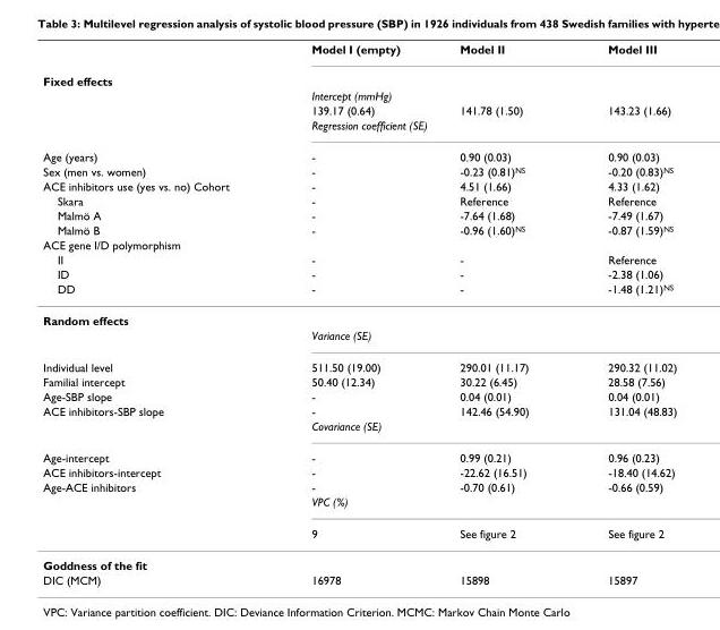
<table><thead><tr><td rowspan="15">Fixed effects Age (years) Sex (men vs. women) ACE inhibitors use (yes vs. no) Cohort Skara Malmö A Malmö B ACE gene I/D polymorphism II ID DD</td><td rowspan="2">Model I (empty)</td><td rowspan="2">Model II</td><td rowspan="2">Model III</td></tr><tr></tr><tr><td colspan="3">Intercept (mmHg)</td></tr><tr><td>139.17 (0.64)</td><td>141.78 (1.50)</td><td>143.23 (1.66)</td></tr><tr><td colspan="3">Regression coefficient (SE)</td></tr><tr><td rowspan="10">- - - - - - - - -</td><td rowspan="10">0.90 (0.03) -0.23 (0.81)NS 4.51 (1.66) Reference -7.64 (1.68) -0.96 (1.60)NS - - -</td><td rowspan="10">0.90 (0.03) -0.20 (0.83)NS 4.33 (1.62) Reference -7.49 (1.67) -0.87 (1.59)NS Reference -2.38 (1.06) -1.48 (1.21)NS</td></tr><tr></tr><tr></tr><tr></tr><tr></tr><tr></tr><tr></tr><tr></tr><tr></tr><tr></tr></thead><tbody><tr><td colspan="4">Random effects</td></tr><tr><td></td><td colspan="3">Variance (SE)</td></tr><tr><td>Individual level</td><td>511.50 (19.00)</td><td>290.01 (11.17)</td><td>290.32 (11.02)</td></tr><tr><td>Familial intercept</td><td>50.40 (12.34)</td><td>30.22 (6.45)</td><td>28.58 (7.56)</td></tr><tr><td>Age-SBP slope</td><td>-</td><td>0.04 (0.01)</td><td>0.04 (0.01)</td></tr><tr><td rowspan="2">ACE inhibitors-SBP slope</td><td>-</td><td>142.46 (54.90)</td><td>131.04 (48.83)</td></tr><tr><td colspan="3">Covariance (SE)</td></tr><tr><td>Age-intercept</td><td>-</td><td>0.99 (0.21)</td><td>0.96 (0.23)</td></tr><tr><td>ACE inhibitors-intercept</td><td>-</td><td>-22.62 (16.51)</td><td>-18.40 (14.62)</td></tr><tr><td rowspan="3">Age-ACE inhibitors</td><td>-</td><td>-0.70 (0.61)</td><td>-0.66 (0.59)</td></tr><tr><td colspan="3">VPC (%)</td></tr><tr><td>9</td><td>See figure 2</td><td>See figure 2</td></tr><tr><td colspan="4">Goddness of the fit</td></tr><tr><td>DIC (MCM)</td><td>16978</td><td>15898</td><td>15897</td></tr></tbody></table>